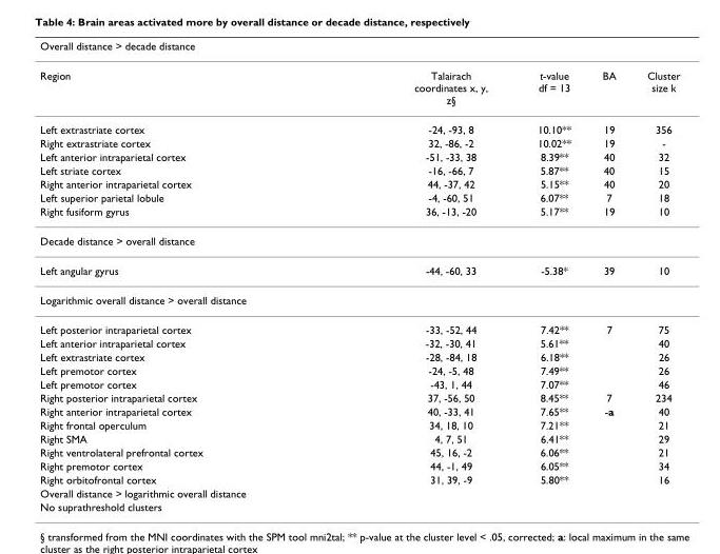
<table><thead><tr><td>Overall distance &gt; decade distance</td><td></td><td></td><td></td><td></td></tr></thead><tbody><tr><td>Region</td><td>Talairach coordinates x, y, z§</td><td>t-value df = 13</td><td>BA</td><td>Cluster size k</td></tr><tr><td>Left extrastriate cortex</td><td>-24, -93, 8</td><td>10.10**</td><td>19</td><td>356</td></tr><tr><td>Right extrastriate cortex</td><td>32, -86, -2</td><td>10.02**</td><td>19</td><td>-</td></tr><tr><td>Left anterior intraparietal cortex</td><td>-51, -33, 38</td><td>8.39**</td><td>40</td><td>32</td></tr><tr><td>Left striate cortex</td><td>-16, -66, 7</td><td>5.87**</td><td>40</td><td>15</td></tr><tr><td>Right anterior intraparietal cortex</td><td>44, -37, 42</td><td>5.15**</td><td>40</td><td>20</td></tr><tr><td>Left superior parietal lobule</td><td>-4, -60, 51</td><td>6.07**</td><td>7</td><td>18</td></tr><tr><td>Right fusiform gyrus</td><td>36, -13, -20</td><td>5.17**</td><td>19</td><td>10</td></tr><tr><td colspan="5">Decade distance &gt; overall distance</td></tr><tr><td>Left angular gyrus</td><td>-44, -60, 33</td><td>-5.38*</td><td>39</td><td>10</td></tr><tr><td colspan="5">Logarithmic overall distance &gt; overall distance</td></tr><tr><td>Left posterior intraparietal cortex</td><td>-33, -52, 44</td><td>7.42**</td><td>7</td><td>75</td></tr><tr><td>Left anterior intraparietal cortex</td><td>-32, -30, 41</td><td>5.61**</td><td></td><td>40</td></tr><tr><td>Left extrastriate cortex</td><td>-28, -84, 18</td><td>6.18**</td><td></td><td>26</td></tr><tr><td>Left premotor cortex</td><td>-24, -5, 48</td><td>7.49**</td><td></td><td>26</td></tr><tr><td>Left premotor cortex</td><td>-43, 1, 44</td><td>7.07**</td><td></td><td>46</td></tr><tr><td>Right posterior intraparietal cortex</td><td>37, -56, 50</td><td>8.45**</td><td>7</td><td>234</td></tr><tr><td>Right anterior intraparietal cortex</td><td>40, -33, 41</td><td>7.65**</td><td>-a</td><td>40</td></tr><tr><td>Right frontal operculum</td><td>34, 18, 10</td><td>7.21**</td><td></td><td>21</td></tr><tr><td>Right SMA</td><td>4, 7, 51</td><td>6.41**</td><td></td><td>29</td></tr><tr><td>Right ventrolateral prefrontal cortex</td><td>45, 16, -2</td><td>6.06**</td><td></td><td>21</td></tr><tr><td>Right premotor cortex</td><td>44, -1, 49</td><td>6.05**</td><td></td><td>34</td></tr><tr><td>Right orbitofrontal cortex</td><td>31, 39, -9</td><td>5.80**</td><td></td><td>16</td></tr><tr><td colspan="5">Overall distance &gt; logarithmic overall distance</td></tr><tr><td>No suprathreshold clusters</td><td></td><td></td><td></td><td></td></tr></tbody></table>